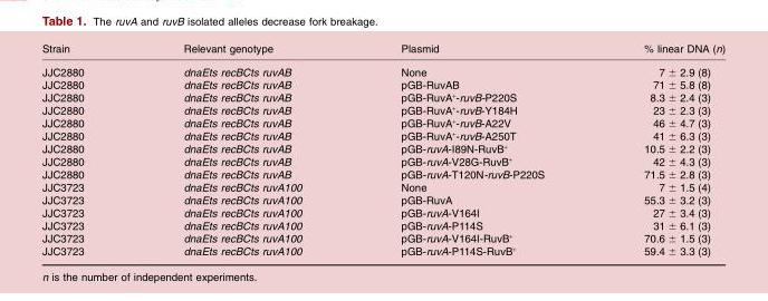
<table><thead><tr><td>Strain</td><td>Relevant genotype</td><td>Plasmid</td><td>% linear DNA (n)</td></tr></thead><tbody><tr><td>JJC2880</td><td>dnaEts recBCts ruvAB</td><td>None</td><td>7 ± 2.9 (8)</td></tr><tr><td>JJC2880</td><td>dnaEts recBCts ruvAB</td><td>pGB-RuvAB</td><td>71 ± 5.8 (8)</td></tr><tr><td>JJC2880</td><td>dnaEts recBCts ruvAB</td><td>pGB-RuvA<sup>+</sup>-ruvB-P220S</td><td>8.3 ± 2.4 (3)</td></tr><tr><td>JJC2880</td><td>dnaEts recBCts ruvAB</td><td>pGB-RuvA<sup>+</sup>-ruvB-Y184H</td><td>23 ± 2.3 (3)</td></tr><tr><td>JJC2880</td><td>dnaEts recBCts ruvAB</td><td>pGB-RuvA<sup>+</sup>-ruvB-A22V</td><td>46 ± 4.7 (3)</td></tr><tr><td>JJC2880</td><td>dnaEts recBCts ruvAB</td><td>pGB-RuvA<sup>+</sup>-ruvB-A250T</td><td>41 ± 6.3 (3)</td></tr><tr><td>JJC2880</td><td>dnaEts recBCts ruvAB</td><td>pGB-ruvA-I89N-RuvB<sup>+</sup></td><td>10.5 ± 2.2 (3)</td></tr><tr><td>JJC2880</td><td>dnaEts recBCts ruvAB</td><td>pGB-ruvA-V28G-RuvB<sup>+</sup></td><td>42 ± 4.3 (3)</td></tr><tr><td>JJC2880</td><td>dnaEts recBCts ruvAB</td><td>pGB-ruvA-T120N-ruvB-P220S</td><td>71.5 ± 2.8 (3)</td></tr><tr><td>JJC3723</td><td>dnaEts recBCts ruvA100</td><td>None</td><td>7 ± 1.5 (4)</td></tr><tr><td>JJC3723</td><td>dnaEts recBCts ruvA100</td><td>pGB-RuvA</td><td>55.3 ± 3.2 (3)</td></tr><tr><td>JJC3723</td><td>dnaEts recBCts ruvA100</td><td>pGB-ruvA-V164I</td><td>27 ± 3.4 (3)</td></tr><tr><td>JJC3723</td><td>dnaEts recBCts ruvA100</td><td>pGB-ruvA-P114S</td><td>31 ± 6.1 (3)</td></tr><tr><td>JJC3723</td><td>dnaEts recBCts ruvA100</td><td>pGB-ruvA-V164I-RuvB<sup>+</sup></td><td>70.6 ± 1.5 (3)</td></tr><tr><td>JJC3723</td><td>dnaEts recBCts ruvA100</td><td>pGB-ruvA-P114S-RuvB<sup>+</sup></td><td>59.4 ± 3.3 (3)</td></tr></tbody></table>